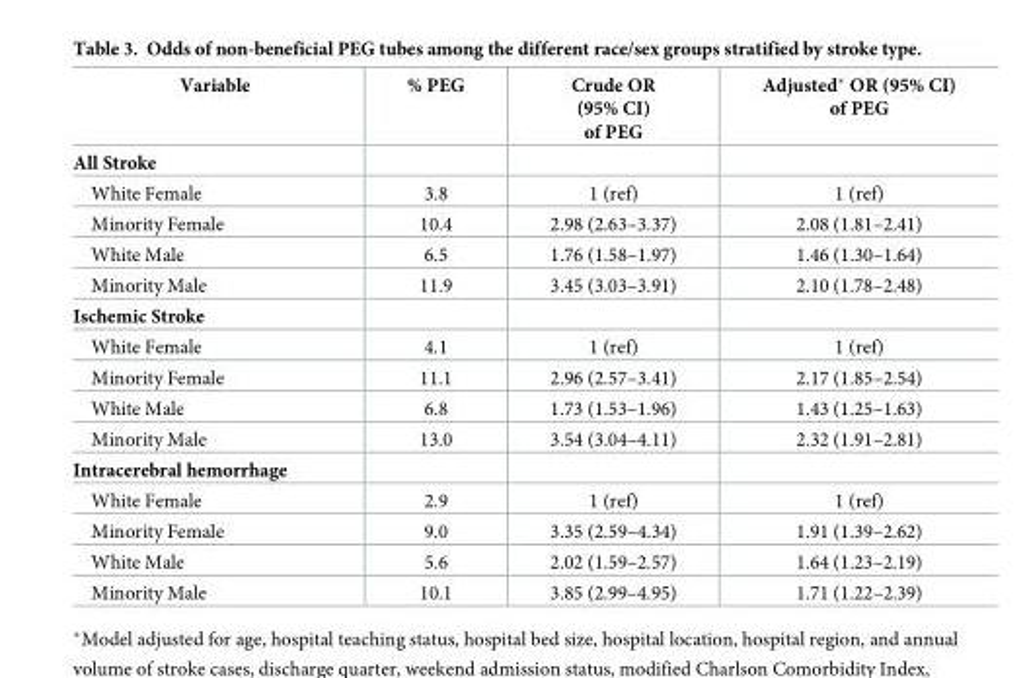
<table><thead><tr><td>Variable</td><td>% PEG</td><td>Crude OR (95% CI) of PEG</td><td>Adjusted* OR (95% CI) of PEG</td></tr></thead><tbody><tr><td colspan="4">All Stroke</td></tr><tr><td>White Female</td><td>3.8</td><td>1 (ref)</td><td>1 (ref)</td></tr><tr><td>Minority Female</td><td>10.4</td><td>2.98 (2.63–3.37)</td><td>2.08 (1.81–2.41)</td></tr><tr><td>White Male</td><td>6.5</td><td>1.76 (1.58–1.97)</td><td>1.46 (1.30–1.64)</td></tr><tr><td>Minority Male</td><td>11.9</td><td>3.45 (3.03–3.91)</td><td>2.10 (1.78–2.48)</td></tr><tr><td colspan="4">Ischemic Stroke</td></tr><tr><td>White Female</td><td>4.1</td><td>1 (ref)</td><td>1 (ref)</td></tr><tr><td>Minority Female</td><td>11.1</td><td>2.96 (2.57–3.41)</td><td>2.17 (1.85–2.54)</td></tr><tr><td>White Male</td><td>6.8</td><td>1.73 (1.53–1.96)</td><td>1.43 (1.25–1.63)</td></tr><tr><td>Minority Male</td><td>13.0</td><td>3.54 (3.04–4.11)</td><td>2.32 (1.91–2.81)</td></tr><tr><td colspan="4">Intracerebral hemorrhage</td></tr><tr><td>White Female</td><td>2.9</td><td>1 (ref)</td><td>1 (ref)</td></tr><tr><td>Minority Female</td><td>9.0</td><td>3.35 (2.59–4.34)</td><td>1.91 (1.39–2.62)</td></tr><tr><td>White Male</td><td>5.6</td><td>2.02 (1.59–2.57)</td><td>1.64 (1.23–2.19)</td></tr><tr><td>Minority Male</td><td>10.1</td><td>3.85 (2.99–4.95)</td><td>1.71 (1.22–2.39)</td></tr></tbody></table>